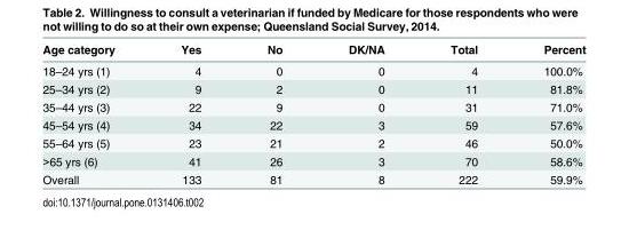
<table><thead><tr><td>Age category</td><td>Yes</td><td>No</td><td>DK/NA</td><td>Total</td><td>Percent</td></tr></thead><tbody><tr><td>18–24 yrs (1)</td><td>4</td><td>0</td><td>0</td><td>4</td><td>100.0%</td></tr><tr><td>25–34 yrs (2)</td><td>9</td><td>2</td><td>0</td><td>11</td><td>81.8%</td></tr><tr><td>35–44 yrs (3)</td><td>22</td><td>9</td><td>0</td><td>31</td><td>71.0%</td></tr><tr><td>45–54 yrs (4)</td><td>34</td><td>22</td><td>3</td><td>59</td><td>57.6%</td></tr><tr><td>55–64 yrs (5)</td><td>23</td><td>21</td><td>2</td><td>46</td><td>50.0%</td></tr><tr><td>&gt;65 yrs (6)</td><td>41</td><td>26</td><td>3</td><td>70</td><td>58.6%</td></tr><tr><td>Overall</td><td>133</td><td>81</td><td>8</td><td>222</td><td>59.9%</td></tr></tbody></table>